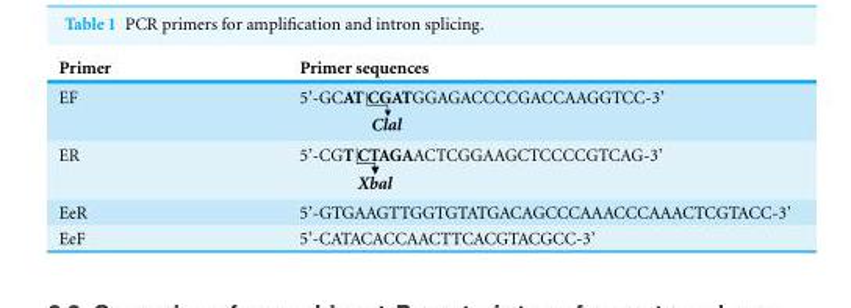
<table><thead><tr><td>Primer</td><td>Primer sequences</td></tr></thead><tbody><tr><td>EeR</td><td>5’-GTGAAGTTGGTGTATGACAGCCCAAACCCAAACTCGTACC-3’</td></tr><tr><td>EeF</td><td>5’-CATACACCAACTTCACGTACGCC-3’</td></tr></tbody></table>